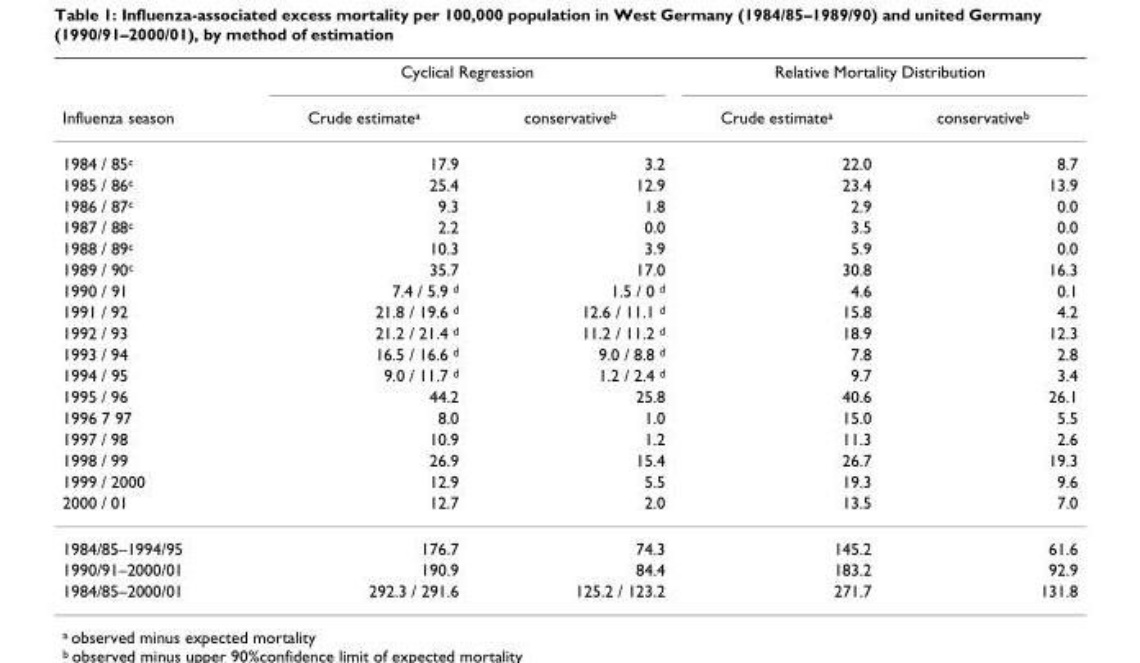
<table><thead><tr><td rowspan="2">Influenza season</td><td colspan="2">Cyclical Regression</td><td colspan="2">Relative Mortality Distribution</td></tr><tr><td>Crude estimate<sup>a</sup></td><td>conservative<sup>b</sup></td><td>Crude estimate<sup>a</sup></td><td>conservative<sup>b</sup></td></tr></thead><tbody><tr><td>1984 / 85<sup>c</sup></td><td>17.9</td><td>3.2</td><td>22.0</td><td>8.7</td></tr><tr><td>1985 / 86<sup>c</sup></td><td>25.4</td><td>12.9</td><td>23.4</td><td>13.9</td></tr><tr><td>1986 / 87<sup>c</sup></td><td>9.3</td><td>1.8</td><td>2.9</td><td>0.0</td></tr><tr><td>1987 / 88<sup>c</sup></td><td>2.2</td><td>0.0</td><td>3.5</td><td>0.0</td></tr><tr><td>1988 / 89<sup>c</sup></td><td>10.3</td><td>3.9</td><td>5.9</td><td>0.0</td></tr><tr><td>1989 / 90<sup>c</sup></td><td>35.7</td><td>17.0</td><td>30.8</td><td>16.3</td></tr><tr><td>1990 / 91</td><td>7.4 / 5.9 <sup>d</sup></td><td>1.5 / 0 <sup>d</sup></td><td>4.6</td><td>0.1</td></tr><tr><td>1991 / 92</td><td>21.8 / 19.6 <sup>d</sup></td><td>12.6 / 11.1 <sup>d</sup></td><td>15.8</td><td>4.2</td></tr><tr><td>1992 / 93</td><td>21.2 / 21.4 <sup>d</sup></td><td>11.2 / 11.2 <sup>d</sup></td><td>18.9</td><td>12.3</td></tr><tr><td>1993 / 94</td><td>16.5 / 16.6 <sup>d</sup></td><td>9.0 / 8.8 <sup>d</sup></td><td>7.8</td><td>2.8</td></tr><tr><td>1994 / 95</td><td>9.0 / 11.7 <sup>d</sup></td><td>1.2 / 2.4 <sup>d</sup></td><td>9.7</td><td>3.4</td></tr><tr><td>1995 / 96</td><td>44.2</td><td>25.8</td><td>40.6</td><td>26.1</td></tr><tr><td>1996 7 97</td><td>8.0</td><td>1.0</td><td>15.0</td><td>5.5</td></tr><tr><td>1997 / 98</td><td>10.9</td><td>1.2</td><td>11.3</td><td>2.6</td></tr><tr><td>1998 / 99</td><td>26.9</td><td>15.4</td><td>26.7</td><td>19.3</td></tr><tr><td>1999 / 2000</td><td>12.9</td><td>5.5</td><td>19.3</td><td>9.6</td></tr><tr><td>2000 / 01</td><td>12.7</td><td>2.0</td><td>13.5</td><td>7.0</td></tr><tr><td>1984/85–1994/95</td><td>176.7</td><td>74.3</td><td>145.2</td><td>61.6</td></tr><tr><td>1990/91–2000/01</td><td>190.9</td><td>84.4</td><td>183.2</td><td>92.9</td></tr><tr><td>1984/85–2000/01</td><td>292.3 / 291.6</td><td>125.2 / 123.2</td><td>271.7</td><td>131.8</td></tr></tbody></table>